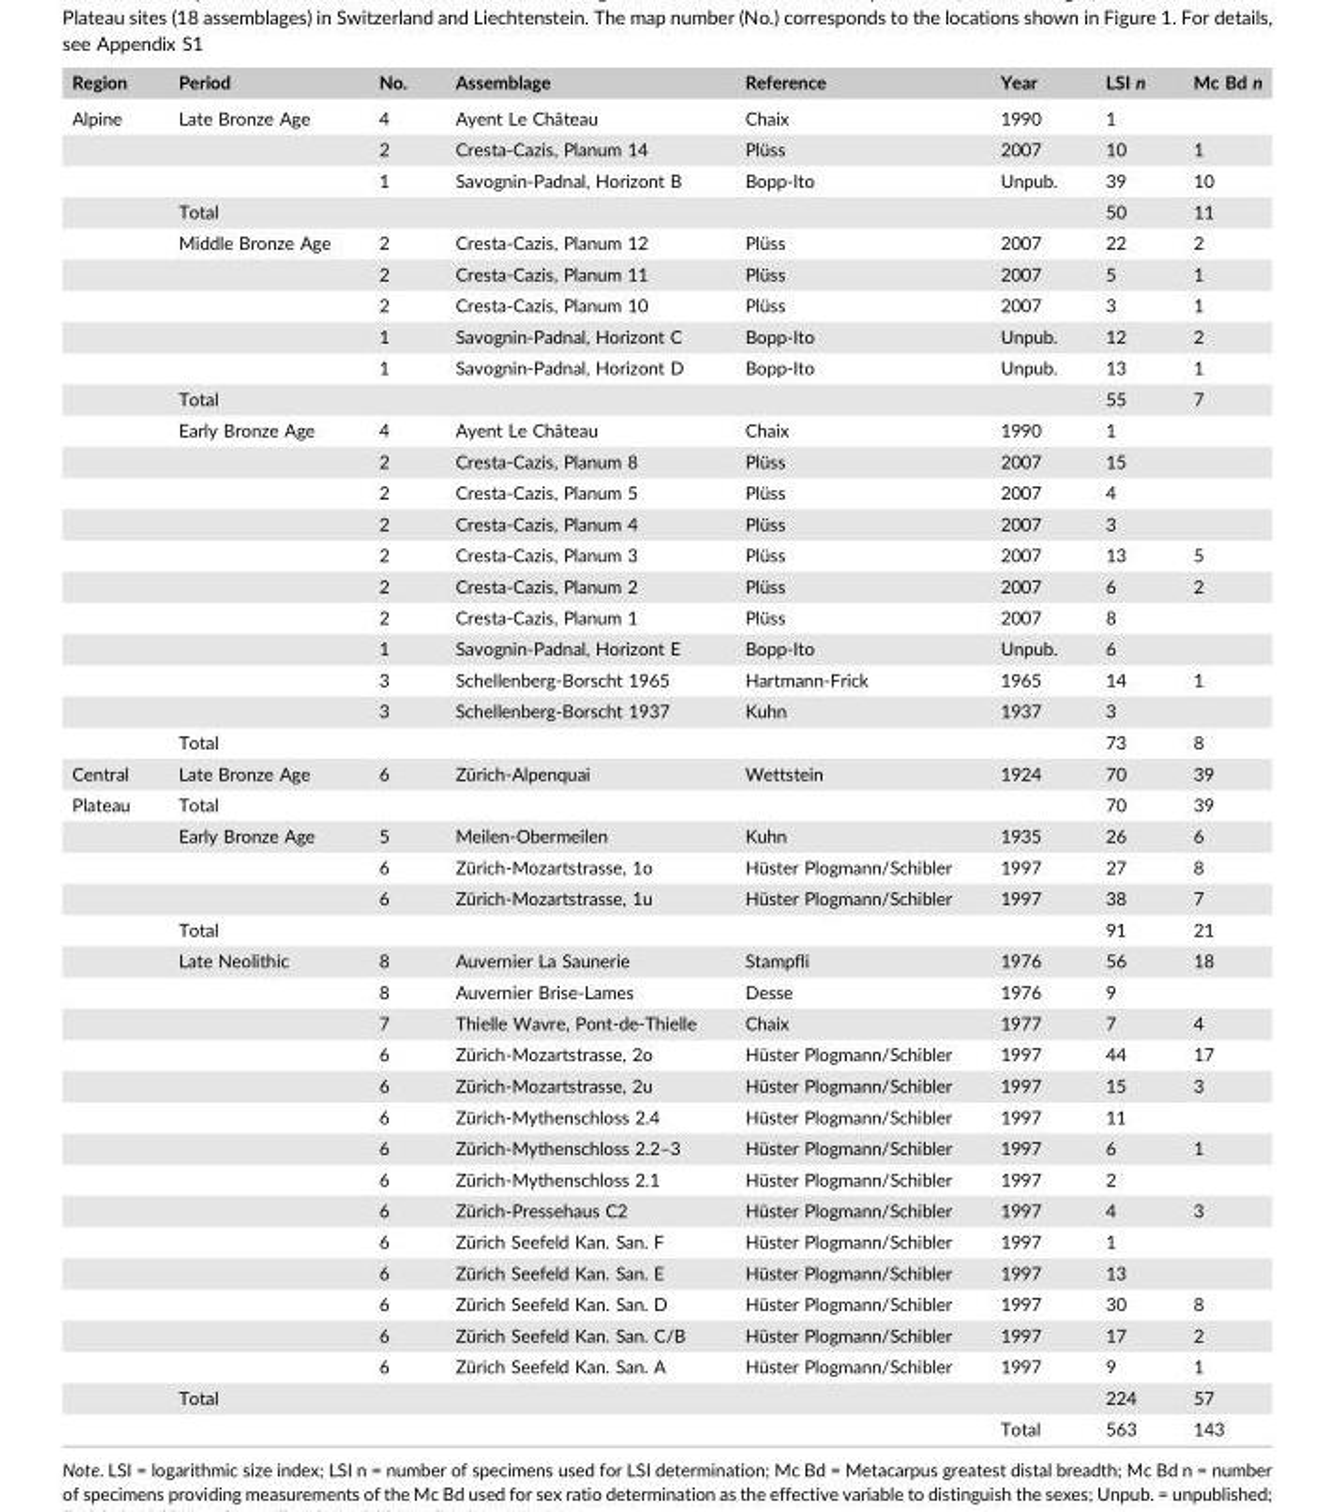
<table><thead><tr><td>Region</td><td>Period</td><td>No.</td><td>Assemblage</td><td>Reference</td><td>Year</td><td>LSI n</td><td>Mc Bd n</td></tr></thead><tbody><tr><td rowspan="21">Alpine</td><td>Late Bronze Age</td><td>4</td><td>Ayent Le Château</td><td>Chaix</td><td>1990</td><td>1</td><td></td></tr><tr><td></td><td>2</td><td>Cresta‐Cazis, Planum 14</td><td>Plüss</td><td>2007</td><td>10</td><td>1</td></tr><tr><td></td><td>1</td><td>Savognin‐Padnal, Horizont B</td><td>Bopp‐Ito</td><td>Unpub.</td><td>39</td><td>10</td></tr><tr><td>Total</td><td></td><td></td><td></td><td></td><td>50</td><td>11</td></tr><tr><td>Middle Bronze Age</td><td>2</td><td>Cresta‐Cazis, Planum 12</td><td>Plüss</td><td>2007</td><td>22</td><td>2</td></tr><tr><td></td><td>2</td><td>Cresta‐Cazis, Planum 11</td><td>Plüss</td><td>2007</td><td>5</td><td>1</td></tr><tr><td></td><td>2</td><td>Cresta‐Cazis, Planum 10</td><td>Plüss</td><td>2007</td><td>3</td><td>1</td></tr><tr><td></td><td>1</td><td>Savognin‐Padnal, Horizont C</td><td>Bopp‐Ito</td><td>Unpub.</td><td>12</td><td>2</td></tr><tr><td></td><td>1</td><td>Savognin‐Padnal, Horizont D</td><td>Bopp‐Ito</td><td>Unpub.</td><td>13</td><td>1</td></tr><tr><td>Total</td><td></td><td></td><td></td><td></td><td>55</td><td>7</td></tr><tr><td>Early Bronze Age</td><td>4</td><td>Ayent Le Château</td><td>Chaix</td><td>1990</td><td>1</td><td></td></tr><tr><td></td><td>2</td><td>Cresta‐Cazis, Planum 8</td><td>Plüss</td><td>2007</td><td>15</td><td></td></tr><tr><td></td><td>2</td><td>Cresta‐Cazis, Planum 5</td><td>Plüss</td><td>2007</td><td>4</td><td></td></tr><tr><td></td><td>2</td><td>Cresta‐Cazis, Planum 4</td><td>Plüss</td><td>2007</td><td>3</td><td></td></tr><tr><td></td><td>2</td><td>Cresta‐Cazis, Planum 3</td><td>Plüss</td><td>2007</td><td>13</td><td>5</td></tr><tr><td></td><td>2</td><td>Cresta‐Cazis, Planum 2</td><td>Plüss</td><td>2007</td><td>6</td><td>2</td></tr><tr><td></td><td>2</td><td>Cresta‐Cazis, Planum 1</td><td>Plüss</td><td>2007</td><td>8</td><td></td></tr><tr><td></td><td>1</td><td>Savognin‐Padnal, Horizont E</td><td>Bopp‐Ito</td><td>Unpub.</td><td>6</td><td></td></tr><tr><td></td><td>3</td><td>Schellenberg‐Borscht 1965</td><td>Hartmann‐Frick</td><td>1965</td><td>14</td><td>1</td></tr><tr><td></td><td>3</td><td>Schellenberg‐Borscht 1937</td><td>Kuhn</td><td>1937</td><td>3</td><td></td></tr><tr><td>Total</td><td></td><td></td><td></td><td></td><td>73</td><td>8</td></tr><tr><td>Central</td><td>Late Bronze Age</td><td>6</td><td>Zürich‐Alpenquai</td><td>Wettstein</td><td>1924</td><td>70</td><td>39</td></tr><tr><td rowspan="21">Plateau</td><td>Total</td><td></td><td></td><td></td><td></td><td>70</td><td>39</td></tr><tr><td>Early Bronze Age</td><td>5</td><td>Meilen‐Obermeilen</td><td>Kuhn</td><td>1935</td><td>26</td><td>6</td></tr><tr><td></td><td>6</td><td>Zürich‐Mozartstrasse, 1o</td><td>Hüster Plogmann/Schibler</td><td>1997</td><td>27</td><td>8</td></tr><tr><td></td><td>6</td><td>Zürich‐Mozartstrasse, 1u</td><td>Hüster Plogmann/Schibler</td><td>1997</td><td>38</td><td>7</td></tr><tr><td>Total</td><td></td><td></td><td></td><td></td><td>91</td><td>21</td></tr><tr><td>Late Neolithic</td><td>8</td><td>Auvernier La Saunerie</td><td>Stampfli</td><td>1976</td><td>56</td><td>18</td></tr><tr><td></td><td>8</td><td>Auvernier Brise‐Lames</td><td>Desse</td><td>1976</td><td>9</td><td></td></tr><tr><td></td><td>7</td><td>Thielle Wavre, Pont‐de‐Thielle</td><td>Chaix</td><td>1977</td><td>7</td><td>4</td></tr><tr><td></td><td>6</td><td>Zürich‐Mozartstrasse, 2o</td><td>Hüster Plogmann/Schibler</td><td>1997</td><td>44</td><td>17</td></tr><tr><td></td><td>6</td><td>Zürich‐Mozartstrasse, 2u</td><td>Hüster Plogmann/Schibler</td><td>1997</td><td>15</td><td>3</td></tr><tr><td></td><td>6</td><td>Zürich‐Mythenschloss 2.4</td><td>Hüster Plogmann/Schibler</td><td>1997</td><td>11</td><td></td></tr><tr><td></td><td>6</td><td>Zürich‐Mythenschloss 2.2–3</td><td>Hüster Plogmann/Schibler</td><td>1997</td><td>6</td><td>1</td></tr><tr><td></td><td>6</td><td>Zürich‐Mythenschloss 2.1</td><td>Hüster Plogmann/Schibler</td><td>1997</td><td>2</td><td></td></tr><tr><td></td><td>6</td><td>Zürich‐Pressehaus C2</td><td>Hüster Plogmann/Schibler</td><td>1997</td><td>4</td><td>3</td></tr><tr><td></td><td>6</td><td>Zürich Seefeld Kan. San. F</td><td>Hüster Plogmann/Schibler</td><td>1997</td><td>1</td><td></td></tr><tr><td></td><td>6</td><td>Zürich Seefeld Kan. San. E</td><td>Hüster Plogmann/Schibler</td><td>1997</td><td>13</td><td></td></tr><tr><td></td><td>6</td><td>Zürich Seefeld Kan. San. D</td><td>Hüster Plogmann/Schibler</td><td>1997</td><td>30</td><td>8</td></tr><tr><td></td><td>6</td><td>Zürich Seefeld Kan. San. C/B</td><td>Hüster Plogmann/Schibler</td><td>1997</td><td>17</td><td>2</td></tr><tr><td></td><td>6</td><td>Zürich Seefeld Kan. San. A</td><td>Hüster Plogmann/Schibler</td><td>1997</td><td>9</td><td>1</td></tr><tr><td>Total</td><td></td><td></td><td></td><td></td><td>224</td><td>57</td></tr><tr><td></td><td></td><td></td><td></td><td>Total</td><td>563</td><td>143</td></tr></tbody></table>